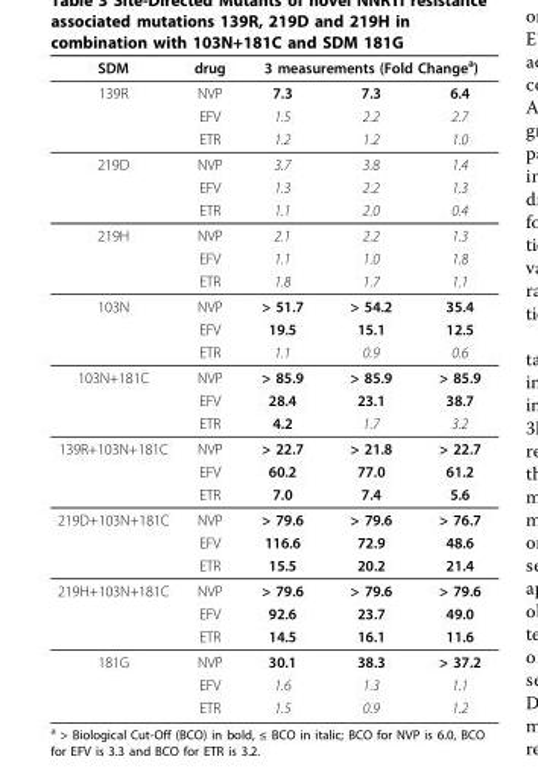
<table><thead><tr><td rowspan="2">SDM 139R</td><td rowspan="2">drug NVP</td><td colspan="3">3 measurements (Fold Change<sup>a</sup>)</td></tr><tr><td>7.3</td><td>7.3</td><td>6.4</td></tr></thead><tbody><tr><td></td><td>EFV</td><td>1.5</td><td>2.2</td><td>2.7</td></tr><tr><td></td><td>ETR</td><td>1.2</td><td>1.2</td><td>1.0</td></tr><tr><td rowspan="3">219D</td><td>NVP</td><td>3.7</td><td>3.8</td><td>1.4</td></tr><tr><td>EFV</td><td>1.3</td><td>2.2</td><td>1.3</td></tr><tr><td>ETR</td><td>1.1</td><td>2.0</td><td>0.4</td></tr><tr><td rowspan="3">219H</td><td>NVP</td><td>2.1</td><td>2.2</td><td>1.3</td></tr><tr><td>EFV</td><td>1.1</td><td>1.0</td><td>1.8</td></tr><tr><td>ETR</td><td>1.8</td><td>1.7</td><td>1.1</td></tr><tr><td rowspan="3">103N</td><td>NVP</td><td>&gt; 51.7</td><td>&gt; 54.2</td><td>35.4</td></tr><tr><td>EFV</td><td>19.5</td><td>15.1</td><td>12.5</td></tr><tr><td>ETR</td><td>1.1</td><td>0.9</td><td>0.6</td></tr><tr><td rowspan="3">103N+181C</td><td>NVP</td><td>&gt; 85.9</td><td>&gt; 85.9</td><td>&gt; 85.9</td></tr><tr><td>EFV</td><td>28.4</td><td>23.1</td><td>38.7</td></tr><tr><td>ETR</td><td>4.2</td><td>1.7</td><td>3.2</td></tr><tr><td rowspan="3">139R+103N+181C</td><td>NVP</td><td>&gt; 22.7</td><td>&gt; 21.8</td><td>&gt; 22.7</td></tr><tr><td>EFV</td><td>60.2</td><td>77.0</td><td>61.2</td></tr><tr><td>ETR</td><td>7.0</td><td>7.4</td><td>5.6</td></tr><tr><td rowspan="3">219D+103N+181C</td><td>NVP</td><td>&gt; 79.6</td><td>&gt; 79.6</td><td>&gt; 76.7</td></tr><tr><td>EFV</td><td>116.6</td><td>72.9</td><td>48.6</td></tr><tr><td>ETR</td><td>15.5</td><td>20.2</td><td>21.4</td></tr><tr><td rowspan="3">219H+103N+181C</td><td>NVP</td><td>&gt; 79.6</td><td>&gt; 79.6</td><td>&gt; 79.6</td></tr><tr><td>EFV</td><td>92.6</td><td>23.7</td><td>49.0</td></tr><tr><td>ETR</td><td>14.5</td><td>16.1</td><td>11.6</td></tr><tr><td rowspan="3">181G</td><td>NVP</td><td>30.1</td><td>38.3</td><td>&gt; 37.2</td></tr><tr><td>EFV</td><td>1.6</td><td>1.3</td><td>1.1</td></tr><tr><td>ETR</td><td>1.5</td><td>0.9</td><td>1.2</td></tr></tbody></table>